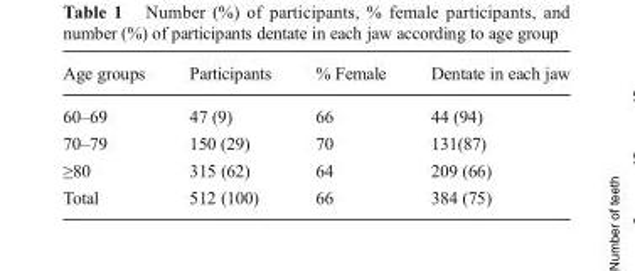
<table><thead><tr><td>Age groups</td><td>Participants</td><td>% Female</td><td>Dentate in each jaw</td></tr></thead><tbody><tr><td>60–69</td><td>47 (9)</td><td>66</td><td>44 (94)</td></tr><tr><td>70–79</td><td>150 (29)</td><td>70</td><td>131(87)</td></tr><tr><td>≥80</td><td>315 (62)</td><td>64</td><td>209 (66)</td></tr><tr><td>Total</td><td>512 (100)</td><td>66</td><td>384 (75)</td></tr></tbody></table>